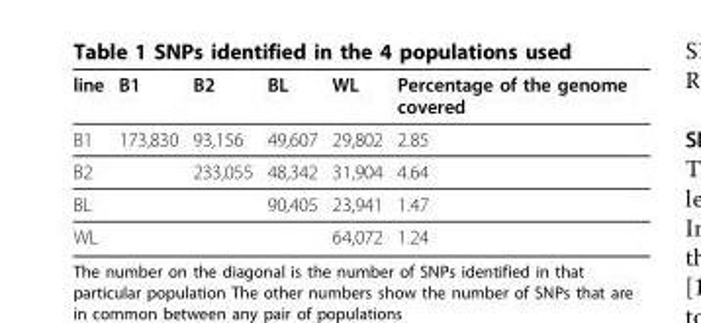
<table><thead><tr><td>line</td><td>B1</td><td>B2</td><td>BL</td><td>WL</td><td>Percentage of the genome covered</td></tr></thead><tbody><tr><td>B1</td><td>173,830</td><td>93,156</td><td>49,607</td><td>29,802</td><td>2.85</td></tr><tr><td>B2</td><td></td><td>233,055</td><td>48,342</td><td>31,904</td><td>4.64</td></tr><tr><td>BL</td><td></td><td></td><td>90,405</td><td>23,941</td><td>1.47</td></tr><tr><td>WL</td><td></td><td></td><td></td><td>64,072</td><td>1.24</td></tr></tbody></table>